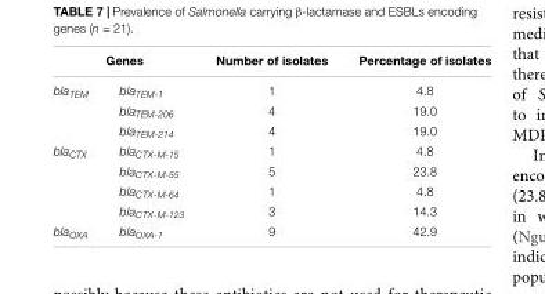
<table><thead><tr><td colspan="2">Genes</td><td rowspan="2">Number of isolates 1</td><td rowspan="2">Percentage of isolates 4.8</td></tr><tr><td>bla<sub>TEM</sub></td><td>blaTEM-1</td></tr></thead><tbody><tr><td></td><td>blaTEM-206</td><td>4</td><td>19.0</td></tr><tr><td></td><td>blaTEM-214</td><td>4</td><td>19.0</td></tr><tr><td rowspan="4">bla<sub>CTX</sub></td><td>blaCTX-M-15</td><td>1</td><td>4.8</td></tr><tr><td>blaCTX-M-55</td><td>5</td><td>23.8</td></tr><tr><td>blaCTX-M-64</td><td>1</td><td>4.8</td></tr><tr><td>blaCTX-M-123</td><td>3</td><td>14.3</td></tr><tr><td>bla<sub>OXA</sub></td><td>blaOXA-1</td><td>9</td><td>42.9</td></tr></tbody></table>